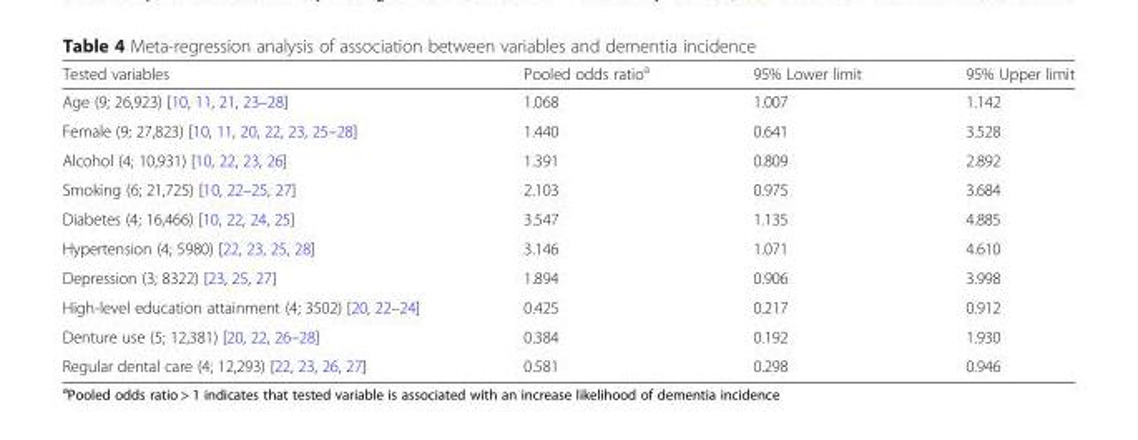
<table><thead><tr><td>Tested variables</td><td>Pooled odds ratio<sup>a</sup></td><td>95% Lower limit</td><td>95% Upper limit</td></tr></thead><tbody><tr><td>Age (9; 26,923) [10, 11, 21, 23–28]</td><td>1.068</td><td>1.007</td><td>1.142</td></tr><tr><td>Female (9; 27,823) [10, 11, 20, 22, 23, 25–28]</td><td>1.440</td><td>0.641</td><td>3.528</td></tr><tr><td>Alcohol (4; 10,931) [10, 22, 23, 26]</td><td>1.391</td><td>0.809</td><td>2.892</td></tr><tr><td>Smoking (6; 21,725) [10, 22–25, 27]</td><td>2.103</td><td>0.975</td><td>3.684</td></tr><tr><td>Diabetes (4; 16,466) [10, 22, 24, 25]</td><td>3.547</td><td>1.135</td><td>4.885</td></tr><tr><td>Hypertension (4; 5980) [22, 23, 25, 28]</td><td>3.146</td><td>1.071</td><td>4.610</td></tr><tr><td>Depression (3; 8322) [23, 25, 27]</td><td>1.894</td><td>0.906</td><td>3.998</td></tr><tr><td>High-level education attainment (4; 3502) [20, 22–24]</td><td>0.425</td><td>0.217</td><td>0.912</td></tr><tr><td>Denture use (5; 12,381) [20, 22, 26–28]</td><td>0.384</td><td>0.192</td><td>1.930</td></tr><tr><td>Regular dental care (4; 12,293) [22, 23, 26, 27]</td><td>0.581</td><td>0.298</td><td>0.946</td></tr></tbody></table>